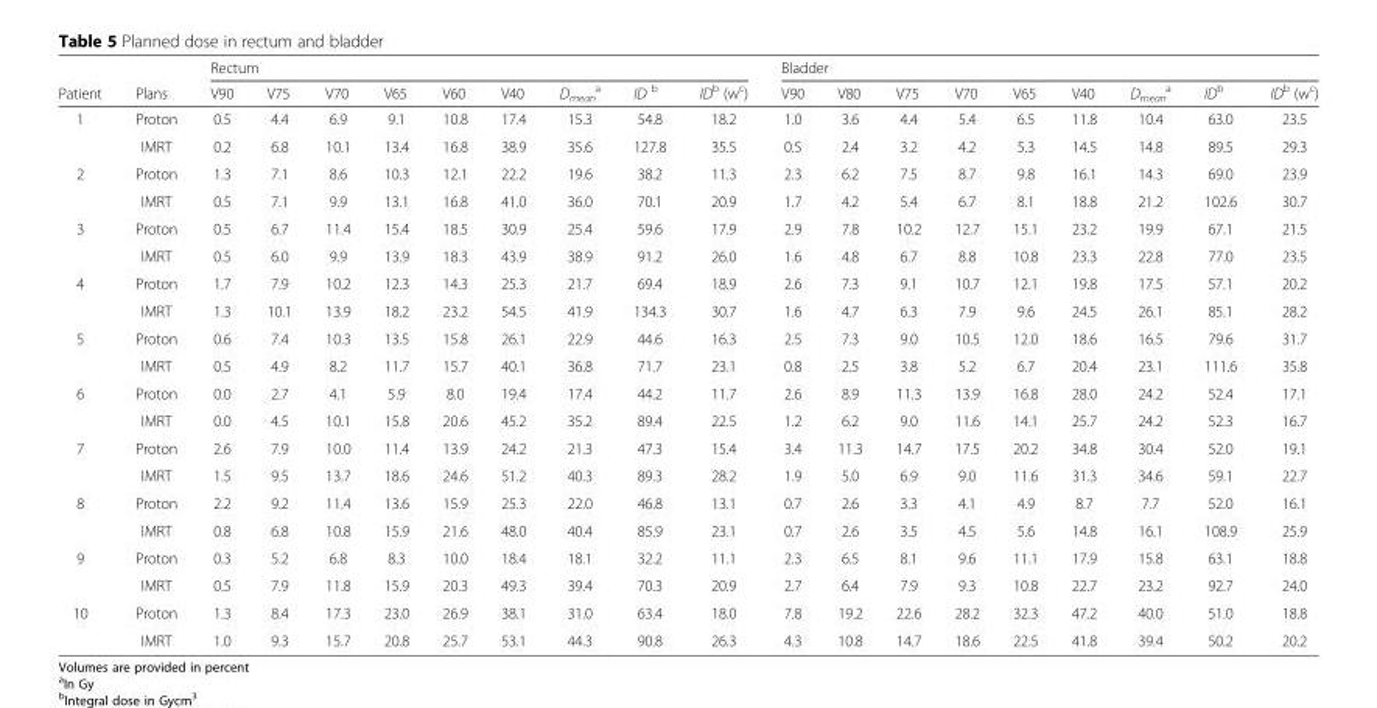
<table><thead><tr><td rowspan="2">Patient</td><td rowspan="2">Plans</td><td colspan="9">Rectum</td><td colspan="9">Bladder</td></tr><tr><td>V90</td><td>V75</td><td>V70</td><td>V65</td><td>V60</td><td>V40</td><td>D<sub>mean</sub> <sup>a</sup></td><td>ID <sup>b</sup></td><td>ID<sup>b</sup> (w<sup>c</sup>)</td><td>V90</td><td>V80</td><td>V75</td><td>V70</td><td>V65</td><td>V40</td><td>D<sub>mean</sub> <sup>a</sup></td><td>ID<sup>b</sup></td><td>ID<sup>b</sup> (w<sup>c</sup>)</td></tr></thead><tbody><tr><td rowspan="2">1</td><td>Proton</td><td>0.5</td><td>4.4</td><td>6.9</td><td>9.1</td><td>10.8</td><td>17.4</td><td>15.3</td><td>54.8</td><td>18.2</td><td>1.0</td><td>3.6</td><td>4.4</td><td>5.4</td><td>6.5</td><td>11.8</td><td>10.4</td><td>63.0</td><td>23.5</td></tr><tr><td>IMRT</td><td>0.2</td><td>6.8</td><td>10.1</td><td>13.4</td><td>16.8</td><td>38.9</td><td>35.6</td><td>127.8</td><td>35.5</td><td>0.5</td><td>2.4</td><td>3.2</td><td>4.2</td><td>5.3</td><td>14.5</td><td>14.8</td><td>89.5</td><td>29.3</td></tr><tr><td rowspan="2">2</td><td>Proton</td><td>1.3</td><td>7.1</td><td>8.6</td><td>10.3</td><td>12.1</td><td>22.2</td><td>19.6</td><td>38.2</td><td>11.3</td><td>2.3</td><td>6.2</td><td>7.5</td><td>8.7</td><td>9.8</td><td>16.1</td><td>14.3</td><td>69.0</td><td>23.9</td></tr><tr><td>IMRT</td><td>0.5</td><td>7.1</td><td>9.9</td><td>13.1</td><td>16.8</td><td>41.0</td><td>36.0</td><td>70.1</td><td>20.9</td><td>1.7</td><td>4.2</td><td>5.4</td><td>6.7</td><td>8.1</td><td>18.8</td><td>21.2</td><td>102.6</td><td>30.7</td></tr><tr><td rowspan="2">3</td><td>Proton</td><td>0.5</td><td>6.7</td><td>11.4</td><td>15.4</td><td>18.5</td><td>30.9</td><td>25.4</td><td>59.6</td><td>17.9</td><td>2.9</td><td>7.8</td><td>10.2</td><td>12.7</td><td>15.1</td><td>23.2</td><td>19.9</td><td>67.1</td><td>21.5</td></tr><tr><td>IMRT</td><td>0.5</td><td>6.0</td><td>9.9</td><td>13.9</td><td>18.3</td><td>43.9</td><td>38.9</td><td>91.2</td><td>26.0</td><td>1.6</td><td>4.8</td><td>6.7</td><td>8.8</td><td>10.8</td><td>23.3</td><td>22.8</td><td>77.0</td><td>23.5</td></tr><tr><td rowspan="2">4</td><td>Proton</td><td>1.7</td><td>7.9</td><td>10.2</td><td>12.3</td><td>14.3</td><td>25.3</td><td>21.7</td><td>69.4</td><td>18.9</td><td>2.6</td><td>7.3</td><td>9.1</td><td>10.7</td><td>12.1</td><td>19.8</td><td>17.5</td><td>57.1</td><td>20.2</td></tr><tr><td>IMRT</td><td>1.3</td><td>10.1</td><td>13.9</td><td>18.2</td><td>23.2</td><td>54.5</td><td>41.9</td><td>134.3</td><td>30.7</td><td>1.6</td><td>4.7</td><td>6.3</td><td>7.9</td><td>9.6</td><td>24.5</td><td>26.1</td><td>85.1</td><td>28.2</td></tr><tr><td rowspan="2">5</td><td>Proton</td><td>0.6</td><td>7.4</td><td>10.3</td><td>13.5</td><td>15.8</td><td>26.1</td><td>22.9</td><td>44.6</td><td>16.3</td><td>2.5</td><td>7.3</td><td>9.0</td><td>10.5</td><td>12.0</td><td>18.6</td><td>16.5</td><td>79.6</td><td>31.7</td></tr><tr><td>IMRT</td><td>0.5</td><td>4.9</td><td>8.2</td><td>11.7</td><td>15.7</td><td>40.1</td><td>36.8</td><td>71.7</td><td>23.1</td><td>0.8</td><td>2.5</td><td>3.8</td><td>5.2</td><td>6.7</td><td>20.4</td><td>23.1</td><td>111.6</td><td>35.8</td></tr><tr><td rowspan="2">6</td><td>Proton</td><td>0.0</td><td>2.7</td><td>4.1</td><td>5.9</td><td>8.0</td><td>19.4</td><td>17.4</td><td>44.2</td><td>11.7</td><td>2.6</td><td>8.9</td><td>11.3</td><td>13.9</td><td>16.8</td><td>28.0</td><td>24.2</td><td>52.4</td><td>17.1</td></tr><tr><td>IMRT</td><td>0.0</td><td>4.5</td><td>10.1</td><td>15.8</td><td>20.6</td><td>45.2</td><td>35.2</td><td>89.4</td><td>22.5</td><td>1.2</td><td>6.2</td><td>9.0</td><td>11.6</td><td>14.1</td><td>25.7</td><td>24.2</td><td>52.3</td><td>16.7</td></tr><tr><td rowspan="2">7</td><td>Proton</td><td>2.6</td><td>7.9</td><td>10.0</td><td>11.4</td><td>13.9</td><td>24.2</td><td>21.3</td><td>47.3</td><td>15.4</td><td>3.4</td><td>11.3</td><td>14.7</td><td>17.5</td><td>20.2</td><td>34.8</td><td>30.4</td><td>52.0</td><td>19.1</td></tr><tr><td>IMRT</td><td>1.5</td><td>9.5</td><td>13.7</td><td>18.6</td><td>24.6</td><td>51.2</td><td>40.3</td><td>89.3</td><td>28.2</td><td>1.9</td><td>5.0</td><td>6.9</td><td>9.0</td><td>11.6</td><td>31.3</td><td>34.6</td><td>59.1</td><td>22.7</td></tr><tr><td rowspan="2">8</td><td>Proton</td><td>2.2</td><td>9.2</td><td>11.4</td><td>13.6</td><td>15.9</td><td>25.3</td><td>22.0</td><td>46.8</td><td>13.1</td><td>0.7</td><td>2.6</td><td>3.3</td><td>4.1</td><td>4.9</td><td>8.7</td><td>7.7</td><td>52.0</td><td>16.1</td></tr><tr><td>IMRT</td><td>0.8</td><td>6.8</td><td>10.8</td><td>15.9</td><td>21.6</td><td>48.0</td><td>40.4</td><td>85.9</td><td>23.1</td><td>0.7</td><td>2.6</td><td>3.5</td><td>4.5</td><td>5.6</td><td>14.8</td><td>16.1</td><td>108.9</td><td>25.9</td></tr><tr><td rowspan="2">9</td><td>Proton</td><td>0.3</td><td>5.2</td><td>6.8</td><td>8.3</td><td>10.0</td><td>18.4</td><td>18.1</td><td>32.2</td><td>11.1</td><td>2.3</td><td>6.5</td><td>8.1</td><td>9.6</td><td>11.1</td><td>17.9</td><td>15.8</td><td>63.1</td><td>18.8</td></tr><tr><td>IMRT</td><td>0.5</td><td>7.9</td><td>11.8</td><td>15.9</td><td>20.3</td><td>49.3</td><td>39.4</td><td>70.3</td><td>20.9</td><td>2.7</td><td>6.4</td><td>7.9</td><td>9.3</td><td>10.8</td><td>22.7</td><td>23.2</td><td>92.7</td><td>24.0</td></tr><tr><td rowspan="2">10</td><td>Proton</td><td>1.3</td><td>8.4</td><td>17.3</td><td>23.0</td><td>26.9</td><td>38.1</td><td>31.0</td><td>63.4</td><td>18.0</td><td>7.8</td><td>19.2</td><td>22.6</td><td>28.2</td><td>32.3</td><td>47.2</td><td>40.0</td><td>51.0</td><td>18.8</td></tr><tr><td>IMRT</td><td>1.0</td><td>9.3</td><td>15.7</td><td>20.8</td><td>25.7</td><td>53.1</td><td>44.3</td><td>90.8</td><td>26.3</td><td>4.3</td><td>10.8</td><td>14.7</td><td>18.6</td><td>22.5</td><td>41.8</td><td>39.4</td><td>50.2</td><td>20.2</td></tr></tbody></table>